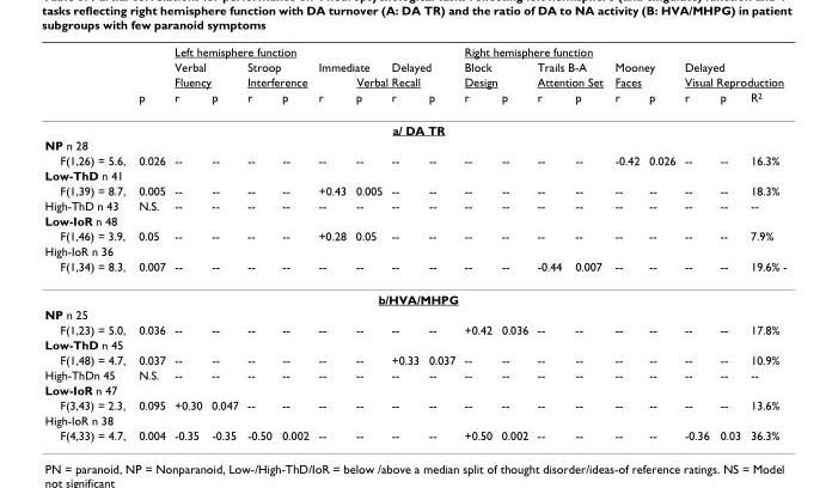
<table><thead><tr><td rowspan="4"></td><td rowspan="4">p</td><td colspan="8">Left hemisphere function</td><td colspan="9">Right hemisphere function</td></tr><tr><td rowspan="2" colspan="2">Verbal Fluency</td><td rowspan="2" colspan="2">Stroop Interference</td><td colspan="2">Immediate</td><td colspan="2">Delayed</td><td rowspan="2" colspan="2">Block Design</td><td rowspan="2" colspan="2">Trails B-A Attention Set</td><td rowspan="2" colspan="2">Mooney Faces</td><td rowspan="2" colspan="3">Delayed Visual Reproduction</td></tr><tr><td colspan="4">Verbal Recall</td></tr><tr><td>r</td><td>p</td><td>r</td><td>p</td><td>r</td><td>p</td><td>r</td><td>p</td><td>r</td><td>p</td><td>r</td><td>p</td><td>r</td><td>p</td><td>r</td><td>p</td><td>R<sup>2</sup></td></tr></thead><tbody><tr><td colspan="19">a/ DA TR</td></tr><tr><td colspan="19">NP n 28</td></tr><tr><td>F(1,26) = 5.6,</td><td>0.026</td><td>--</td><td>--</td><td>--</td><td>--</td><td>--</td><td>--</td><td>--</td><td>--</td><td>--</td><td>--</td><td>--</td><td>--</td><td>-0.42</td><td>0.026</td><td>--</td><td>--</td><td>16.3%</td></tr><tr><td colspan="19">Low-ThD n 41</td></tr><tr><td>F(1,39) = 8.7,</td><td>0.005</td><td>--</td><td>--</td><td>--</td><td>--</td><td>+0.43</td><td>0.005</td><td>--</td><td>--</td><td>--</td><td>--</td><td>--</td><td>--</td><td>--</td><td>--</td><td>--</td><td>--</td><td>18.3%</td></tr><tr><td>High-ThD n 43</td><td>N.S.</td><td>--</td><td>--</td><td>--</td><td>--</td><td>--</td><td>--</td><td>--</td><td>--</td><td>--</td><td>--</td><td>--</td><td>--</td><td>--</td><td>--</td><td>--</td><td>--</td><td>--</td></tr><tr><td colspan="19">Low-IoR n 48</td></tr><tr><td>F(1,46) = 3.9,</td><td>0.05</td><td>--</td><td>--</td><td>--</td><td>--</td><td>+0.28</td><td>0.05</td><td>--</td><td>--</td><td>--</td><td>--</td><td>--</td><td>--</td><td>--</td><td>--</td><td>--</td><td>--</td><td>7.9%</td></tr><tr><td colspan="19">High-IoR n 36</td></tr><tr><td>F(1,34) = 8.3,</td><td>0.007</td><td>--</td><td>--</td><td>--</td><td>--</td><td>--</td><td>--</td><td>--</td><td>--</td><td>--</td><td>--</td><td>-0.44</td><td>0.007</td><td>--</td><td>--</td><td>--</td><td>--</td><td>19.6% -</td></tr><tr><td colspan="19">b/HVA/MHPG</td></tr><tr><td colspan="19">NP n 25</td></tr><tr><td>F(1,23) = 5.0,</td><td>0.036</td><td>--</td><td>--</td><td>--</td><td>--</td><td>--</td><td>--</td><td>--</td><td>--</td><td>+0.42</td><td>0.036</td><td>--</td><td>--</td><td>--</td><td>--</td><td>--</td><td>--</td><td>17.8%</td></tr><tr><td colspan="19">Low-ThD n 45</td></tr><tr><td>F(1,48) = 4.7,</td><td>0.037</td><td>--</td><td>--</td><td>--</td><td>--</td><td>--</td><td>--</td><td>+0.33</td><td>0.037</td><td>--</td><td>--</td><td>--</td><td>--</td><td>--</td><td>--</td><td>--</td><td>--</td><td>10.9%</td></tr><tr><td>High-ThDn 45</td><td>N.S.</td><td>--</td><td>--</td><td>--</td><td>--</td><td>--</td><td>--</td><td>--</td><td>--</td><td>--</td><td>--</td><td>--</td><td>--</td><td>--</td><td>--</td><td>--</td><td>--</td><td>--</td></tr><tr><td colspan="19">Low-IoR n 47</td></tr><tr><td>F(3,43) = 2.3,</td><td>0.095</td><td>+0.30</td><td>0.047</td><td>--</td><td>--</td><td>--</td><td>--</td><td>--</td><td>--</td><td>--</td><td>--</td><td>--</td><td>--</td><td>--</td><td>--</td><td>--</td><td>--</td><td>13.6%</td></tr><tr><td colspan="19">High-IoR n 38</td></tr><tr><td>F(4,33) = 4.7,</td><td>0.004</td><td>-0.35</td><td>-0.35</td><td>-0.50</td><td>0.002</td><td>--</td><td>--</td><td>--</td><td>--</td><td>+0.50</td><td>0.002</td><td>--</td><td>--</td><td>--</td><td>--</td><td>-0.36</td><td>0.03</td><td>36.3%</td></tr></tbody></table>